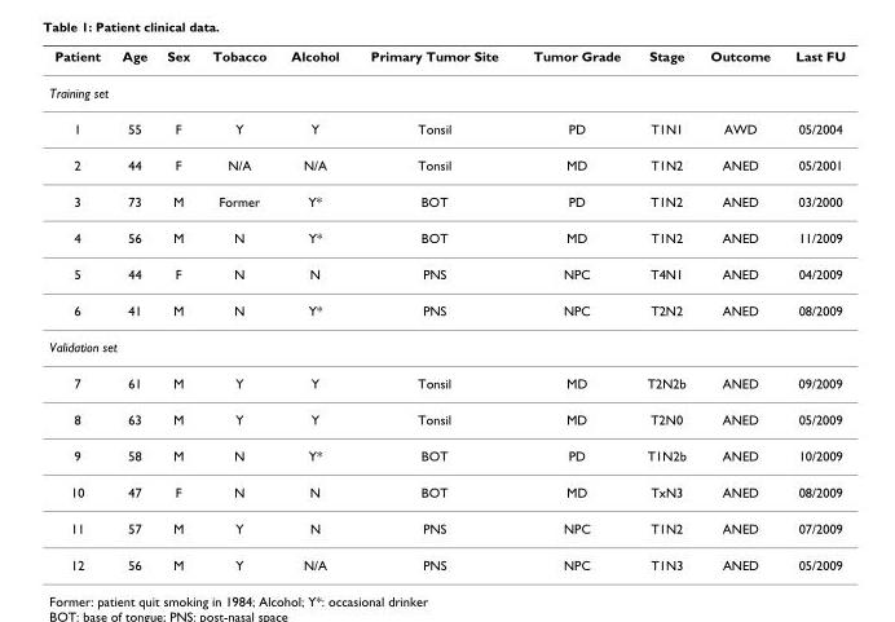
<table><thead><tr><td>Patient</td><td>Age</td><td>Sex</td><td>Tobacco</td><td>Alcohol</td><td>Primary Tumor Site</td><td>Tumor Grade</td><td>Stage</td><td>Outcome</td><td>Last FU</td></tr></thead><tbody><tr><td colspan="10">Training set</td></tr><tr><td>1</td><td>55</td><td>F</td><td>Y</td><td>Y</td><td>Tonsil</td><td>PD</td><td>T1N1</td><td>AWD</td><td>05/2004</td></tr><tr><td>2</td><td>44</td><td>F</td><td>N/A</td><td>N/A</td><td>Tonsil</td><td>MD</td><td>T1N2</td><td>ANED</td><td>05/2001</td></tr><tr><td>3</td><td>73</td><td>M</td><td>Former</td><td>Y*</td><td>BOT</td><td>PD</td><td>T1N2</td><td>ANED</td><td>03/2000</td></tr><tr><td>4</td><td>56</td><td>M</td><td>N</td><td>Y*</td><td>BOT</td><td>MD</td><td>T1N2</td><td>ANED</td><td>11/2009</td></tr><tr><td>5</td><td>44</td><td>F</td><td>N</td><td>N</td><td>PNS</td><td>NPC</td><td>T4N1</td><td>ANED</td><td>04/2009</td></tr><tr><td>6</td><td>41</td><td>M</td><td>N</td><td>Y*</td><td>PNS</td><td>NPC</td><td>T2N2</td><td>ANED</td><td>08/2009</td></tr><tr><td colspan="10">Validation set</td></tr><tr><td>7</td><td>61</td><td>M</td><td>Y</td><td>Y</td><td>Tonsil</td><td>MD</td><td>T2N2b</td><td>ANED</td><td>09/2009</td></tr><tr><td>8</td><td>63</td><td>M</td><td>Y</td><td>Y</td><td>Tonsil</td><td>MD</td><td>T2N0</td><td>ANED</td><td>05/2009</td></tr><tr><td>9</td><td>58</td><td>M</td><td>N</td><td>Y*</td><td>BOT</td><td>PD</td><td>T1N2b</td><td>ANED</td><td>10/2009</td></tr><tr><td>10</td><td>47</td><td>F</td><td>N</td><td>N</td><td>BOT</td><td>MD</td><td>TxN3</td><td>ANED</td><td>08/2009</td></tr><tr><td>11</td><td>57</td><td>M</td><td>Y</td><td>N</td><td>PNS</td><td>NPC</td><td>T1N2</td><td>ANED</td><td>07/2009</td></tr><tr><td>12</td><td>56</td><td>M</td><td>Y</td><td>N/A</td><td>PNS</td><td>NPC</td><td>T1N3</td><td>ANED</td><td>05/2009</td></tr></tbody></table>